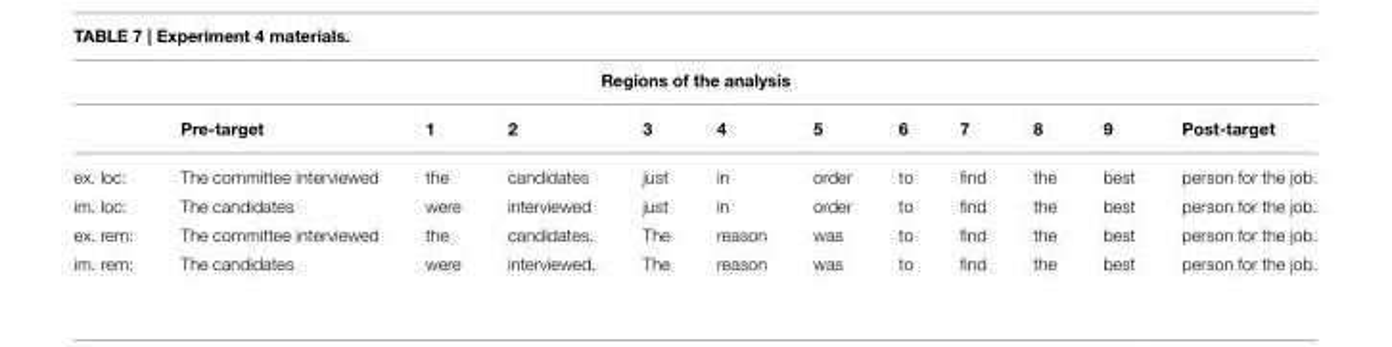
<table><thead><tr><td colspan="12">Regions of the analysis</td></tr><tr><td></td><td>Pre-target</td><td>1</td><td>2</td><td>3</td><td>4</td><td>5</td><td>6</td><td>7</td><td>8</td><td>9</td><td>Post-target</td></tr></thead><tbody><tr><td>ex. loc:</td><td>The committee interviewed</td><td>the</td><td>candidates</td><td>just</td><td>in</td><td>order</td><td>to</td><td>find</td><td>the</td><td>best</td><td>person for the job.</td></tr><tr><td>im. loc:</td><td>The candidates</td><td>were</td><td>interviewed</td><td>just</td><td>in</td><td>order</td><td>to</td><td>find</td><td>the</td><td>best</td><td>person for the job.</td></tr><tr><td>ex. rem:</td><td>The committee interviewed</td><td>the</td><td>candidates.</td><td>The</td><td>reason</td><td>was</td><td>to</td><td>find</td><td>the</td><td>best</td><td>person for the job.</td></tr><tr><td>im. rem:</td><td>The candidates</td><td>were</td><td>interviewed.</td><td>The</td><td>reason</td><td>was</td><td>to</td><td>find</td><td>the</td><td>best</td><td>person for the job.</td></tr></tbody></table>